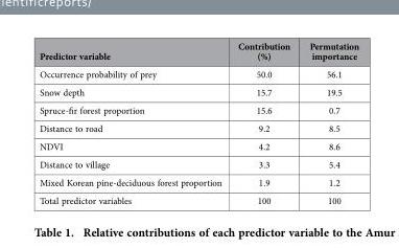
<table><thead><tr><td>Predictor variable</td><td>Contribution (%)</td><td>Permutation importance</td></tr></thead><tbody><tr><td>Occurrence probability of prey</td><td>50.0</td><td>56.1</td></tr><tr><td>Snow depth</td><td>15.7</td><td>19.5</td></tr><tr><td>Spruce-fir forest proportion</td><td>15.6</td><td>0.7</td></tr><tr><td>Distance to road</td><td>9.2</td><td>8.5</td></tr><tr><td>NDVI</td><td>4.2</td><td>8.6</td></tr><tr><td>Distance to village</td><td>3.3</td><td>5.4</td></tr><tr><td>Mixed Korean pine-deciduous forest proportion</td><td>1.9</td><td>1.2</td></tr><tr><td>Total predictor variables</td><td>100</td><td>100</td></tr></tbody></table>